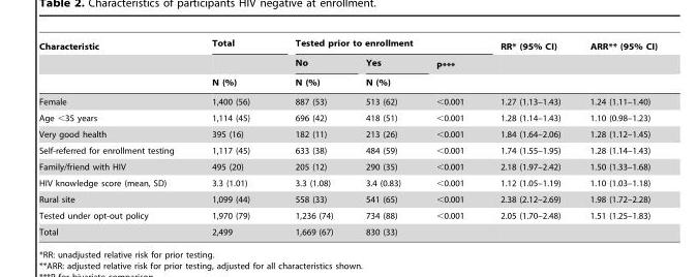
<table><thead><tr><td rowspan="3">Characteristic</td><td rowspan="3">Total N (%)</td><td colspan="3">Tested prior to enrollment</td><td rowspan="3">RR* (95% CI)</td><td rowspan="3">ARR** (95% CI)</td></tr><tr><td rowspan="2">No N (%)</td><td rowspan="2">Yes N (%)</td><td rowspan="2">P***</td></tr><tr></tr></thead><tbody><tr><td>Female</td><td>1,400 (56)</td><td>887 (53)</td><td>513 (62)</td><td>&lt;0.001</td><td>1.27 (1.13–1.43)</td><td>1.24 (1.11–1.40)</td></tr><tr><td>Age &lt;35 years</td><td>1,114 (45)</td><td>696 (42)</td><td>418 (51)</td><td>&lt;0.001</td><td>1.28 (1.14–1.43)</td><td>1.10 (0.98–1.23)</td></tr><tr><td>Very good health</td><td>395 (16)</td><td>182 (11)</td><td>213 (26)</td><td>&lt;0.001</td><td>1.84 (1.64–2.06)</td><td>1.28 (1.12–1.45)</td></tr><tr><td>Self-referred for enrollment testing</td><td>1,117 (45)</td><td>633 (38)</td><td>484 (59)</td><td>&lt;0.001</td><td>1.74 (1.55–1.95)</td><td>1.28 (1.14–1.43)</td></tr><tr><td>Family/friend with HIV</td><td>495 (20)</td><td>205 (12)</td><td>290 (35)</td><td>&lt;0.001</td><td>2.18 (1.97–2.42)</td><td>1.50 (1.33–1.68)</td></tr><tr><td>HIV knowledge score (mean, SD)</td><td>3.3 (1.01)</td><td>3.3 (1.08)</td><td>3.4 (0.83)</td><td>&lt;0.001</td><td>1.12 (1.05–1.19)</td><td>1.10 (1.03–1.18)</td></tr><tr><td>Rural site</td><td>1,099 (44)</td><td>558 (33)</td><td>541 (65)</td><td>&lt;0.001</td><td>2.38 (2.12–2.69)</td><td>1.98 (1.72–2.28)</td></tr><tr><td>Tested under opt-out policy</td><td>1,970 (79)</td><td>1,236 (74)</td><td>734 (88)</td><td>&lt;0.001</td><td>2.05 (1.70–2.48)</td><td>1.51 (1.25–1.83)</td></tr><tr><td>Total</td><td>2,499</td><td>1,669 (67)</td><td>830 (33)</td><td></td><td></td><td></td></tr></tbody></table>